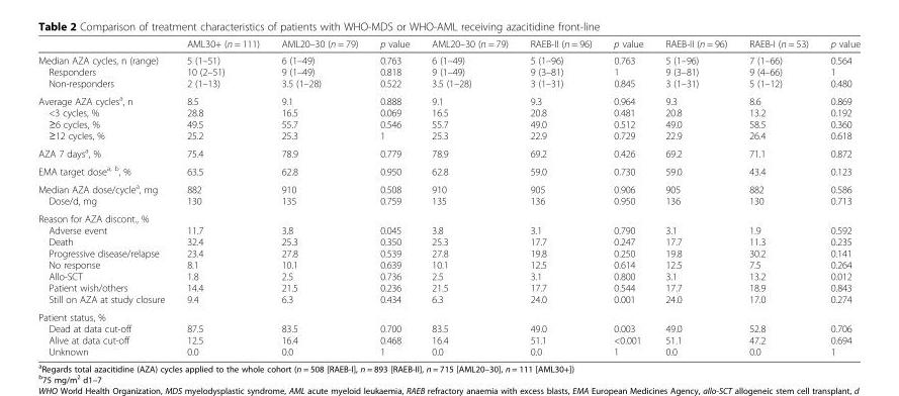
<table><thead><tr><td></td><td>AML30+ (n = 111)</td><td>AML20–30 (n = 79)</td><td>p value</td><td>AML20–30 (n = 79)</td><td>RAEB-II (n = 96)</td><td>p value</td><td>RAEB-II (n = 96)</td><td>RAEB-I (n = 53)</td><td>p value</td></tr></thead><tbody><tr><td>Median AZA cycles, n (range) Responders Non-responders</td><td>5 (1–51) 10 (2–51) 2 (1–13)</td><td>6 (1–49) 9 (1–49) 3.5 (1–28)</td><td>0.763 0.818 0.522</td><td>6 (1–49) 9 (1–49) 3.5 (1–28)</td><td>5 (1–96) 9 (3–81) 3 (1–31)</td><td>0.763 1 0.845</td><td>5 (1–96) 9 (3–81) 3 (1–31)</td><td>7 (1–66) 9 (4–66) 5 (1–12)</td><td>0.564 1 0.480</td></tr><tr><td>Average AZA cycles<sup>a</sup>, n &lt;3 cycles, % ≥6 cycles, % ≥12 cycles, %</td><td>8.5 28.8 49.5 25.2</td><td>9.1 16.5 55.7 25.3</td><td>0.888 0.069 0.546 1</td><td>9.1 16.5 55.7 25.3</td><td>9.3 20.8 49.0 22.9</td><td>0.964 0.481 0.512 0.729</td><td>9.3 20.8 49.0 22.9</td><td>8.6 13.2 58.5 26.4</td><td>0.869 0.192 0.360 0.618</td></tr><tr><td>AZA 7 days<sup>a</sup>, %</td><td>75.4</td><td>78.9</td><td>0.779</td><td>78.9</td><td>69.2</td><td>0.426</td><td>69.2</td><td>71.1</td><td>0.872</td></tr><tr><td>EMA target dose<sup>a, b</sup>, %</td><td>63.5</td><td>62.8</td><td>0.950</td><td>62.8</td><td>59.0</td><td>0.730</td><td>59.0</td><td>43.4</td><td>0.123</td></tr><tr><td>Median AZA dose/cycle<sup>a</sup>, mg Dose/d, mg</td><td>882 130</td><td>910 135</td><td>0.508 0.759</td><td>910 135</td><td>905 136</td><td>0.906 0.950</td><td>905 136</td><td>882 130</td><td>0.586 0.713</td></tr><tr><td>Reason for AZA discont., % Adverse event Death Progressive disease/relapse No response Allo-SCT Patient wish/others Still on AZA at study closure</td><td>11.7 32.4 23.4 8.1 1.8 14.4 9.4</td><td>3.8 25.3 27.8 10.1 2.5 21.5 6.3</td><td>0.045 0.350 0.539 0.639 0.736 0.236 0.434</td><td>3.8 25.3 27.8 10.1 2.5 21.5 6.3</td><td>3.1 17.7 19.8 12.5 3.1 17.7 24.0</td><td>0.790 0.247 0.250 0.614 0.800 0.544 0.001</td><td>3.1 17.7 19.8 12.5 3.1 17.7 24.0</td><td>1.9 11.3 30.2 7.5 13.2 18.9 17.0</td><td>0.592 0.235 0.141 0.264 0.012 0.843 0.274</td></tr><tr><td>Patient status, % Dead at data cut-off Alive at data cut-off Unknown</td><td>87.5 12.5 0.0</td><td>83.5 16.4 0.0</td><td>0.700 0.468 1</td><td>83.5 16.4 0.0</td><td>49.0 51.1 0.0</td><td>0.003 &lt;0.001 1</td><td>49.0 51.1 0.0</td><td>52.8 47.2 0.0</td><td>0.706 0.694 1</td></tr></tbody></table>